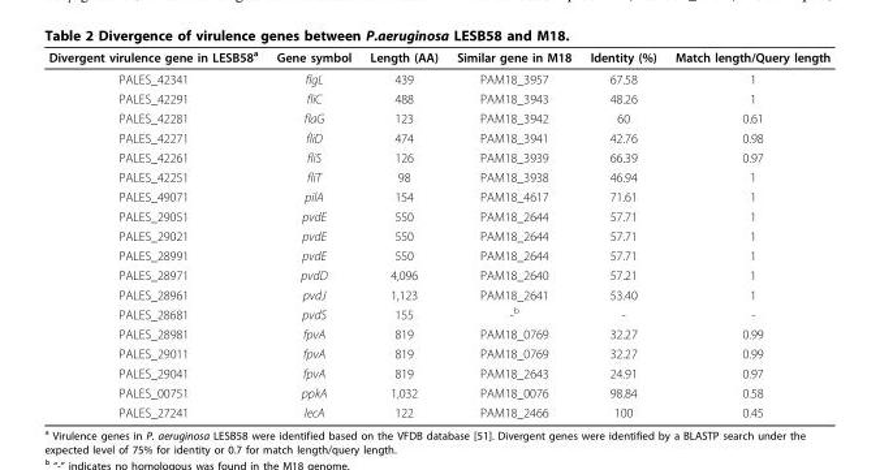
<table><thead><tr><td>Divergent virulence gene in LESB58<sup>a</sup></td><td>Gene symbol</td><td>Length (AA)</td><td>Similar gene in M18</td><td>Identity (%)</td><td>Match length/Query length</td></tr></thead><tbody><tr><td>PALES_42341</td><td>flgL</td><td>439</td><td>PAM18_3957</td><td>67.58</td><td>1</td></tr><tr><td>PALES_42291</td><td>fliC</td><td>488</td><td>PAM18_3943</td><td>48.26</td><td>1</td></tr><tr><td>PALES_42281</td><td>flaG</td><td>123</td><td>PAM18_3942</td><td>60</td><td>0.61</td></tr><tr><td>PALES_42271</td><td>fliD</td><td>474</td><td>PAM18_3941</td><td>42.76</td><td>0.98</td></tr><tr><td>PALES_42261</td><td>fliS</td><td>126</td><td>PAM18_3939</td><td>66.39</td><td>0.97</td></tr><tr><td>PALES_42251</td><td>fliT</td><td>98</td><td>PAM18_3938</td><td>46.94</td><td>1</td></tr><tr><td>PALES_49071</td><td>pilA</td><td>154</td><td>PAM18_4617</td><td>71.61</td><td>1</td></tr><tr><td>PALES_29051</td><td>pvdE</td><td>550</td><td>PAM18_2644</td><td>57.71</td><td>1</td></tr><tr><td>PALES_29021</td><td>pvdE</td><td>550</td><td>PAM18_2644</td><td>57.71</td><td>1</td></tr><tr><td>PALES_28991</td><td>pvdE</td><td>550</td><td>PAM18_2644</td><td>57.71</td><td>1</td></tr><tr><td>PALES_28971</td><td>pvdD</td><td>4,096</td><td>PAM18_2640</td><td>57.21</td><td>1</td></tr><tr><td>PALES_28961</td><td>pvdJ</td><td>1,123</td><td>PAM18_2641</td><td>53.40</td><td>1</td></tr><tr><td>PALES_28681</td><td>pvdS</td><td>155</td><td>-<sup>b</sup></td><td>-</td><td>-</td></tr><tr><td>PALES_28981</td><td>fpvA</td><td>819</td><td>PAM18_0769</td><td>32.27</td><td>0.99</td></tr><tr><td>PALES_29011</td><td>fpvA</td><td>819</td><td>PAM18_0769</td><td>32.27</td><td>0.99</td></tr><tr><td>PALES_29041</td><td>fpvA</td><td>819</td><td>PAM18_2643</td><td>24.91</td><td>0.97</td></tr><tr><td>PALES_00751</td><td>ppkA</td><td>1,032</td><td>PAM18_0076</td><td>98.84</td><td>0.58</td></tr><tr><td>PALES_27241</td><td>lecA</td><td>122</td><td>PAM18_2466</td><td>100</td><td>0.45</td></tr></tbody></table>